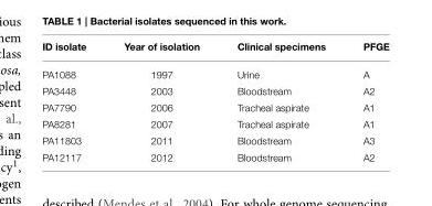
<table><thead><tr><td>ID isolate</td><td>Year of isolation</td><td>Clinical specimens</td><td>PFGE</td></tr></thead><tbody><tr><td>PA1088</td><td>1997</td><td>Urine</td><td>A</td></tr><tr><td>PA3448</td><td>2003</td><td>Bloodstream</td><td>A2</td></tr><tr><td>PA7790</td><td>2006</td><td>Tracheal aspirate</td><td>A1</td></tr><tr><td>PA8281</td><td>2007</td><td>Tracheal aspirate</td><td>A1</td></tr><tr><td>PA11803</td><td>2011</td><td>Bloodstream</td><td>A3</td></tr><tr><td>PA12117</td><td>2012</td><td>Bloodstream</td><td>A2</td></tr></tbody></table>